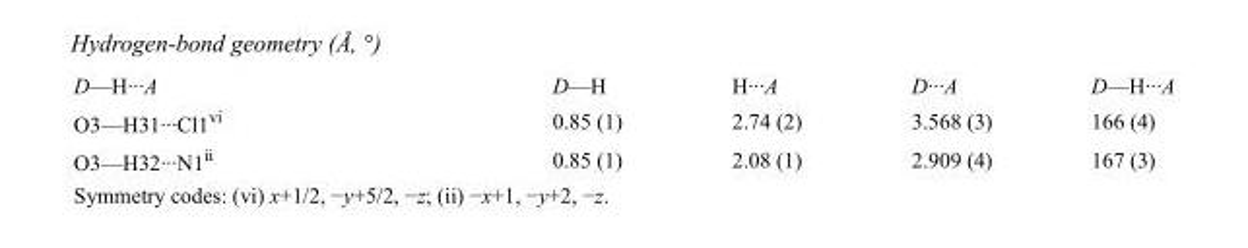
<table><tbody><tr><td>D—H···A</td><td>D—H</td><td>H···A</td><td>D···A</td><td>D—H···A</td></tr><tr><td>O3—H31···Cl1<sup>vi</sup></td><td>0.85 (1)</td><td>2.74 (2)</td><td>3.568 (3)</td><td>166 (4)</td></tr><tr><td>O3—H32···N1<sup>ii</sup></td><td>0.85 (1)</td><td>2.08 (1)</td><td>2.909 (4)</td><td>167 (3)</td></tr></tbody></table>